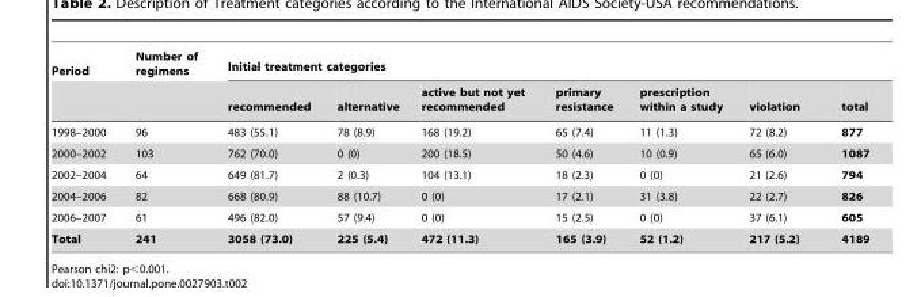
<table><thead><tr><td rowspan="2">Period</td><td rowspan="2">Number of regimens</td><td colspan="7">Initial treatment categories</td></tr><tr><td>recommended</td><td>alternative</td><td>active but not yet recommended</td><td>primary resistance</td><td>prescription within a study</td><td>violation</td><td>total</td></tr></thead><tbody><tr><td>1998–2000</td><td>96</td><td>483 (55.1)</td><td>78 (8.9)</td><td>168 (19.2)</td><td>65 (7.4)</td><td>11 (1.3)</td><td>72 (8.2)</td><td>877</td></tr><tr><td>2000–2002</td><td>103</td><td>762 (70.0)</td><td>0 (0)</td><td>200 (18.5)</td><td>50 (4.6)</td><td>10 (0.9)</td><td>65 (6.0)</td><td>1087</td></tr><tr><td>2002–2004</td><td>64</td><td>649 (81.7)</td><td>2 (0.3)</td><td>104 (13.1)</td><td>18 (2.3)</td><td>0 (0)</td><td>21 (2.6)</td><td>794</td></tr><tr><td>2004–2006</td><td>82</td><td>668 (80.9)</td><td>88 (10.7)</td><td>0 (0)</td><td>17 (2.1)</td><td>31 (3.8)</td><td>22 (2.7)</td><td>826</td></tr><tr><td>2006–2007</td><td>61</td><td>496 (82.0)</td><td>57 (9.4)</td><td>0 (0)</td><td>15 (2.5)</td><td>0 (0)</td><td>37 (6.1)</td><td>605</td></tr><tr><td>Total</td><td>241</td><td>3058 (73.0)</td><td>225 (5.4)</td><td>472 (11.3)</td><td>165 (3.9)</td><td>52 (1.2)</td><td>217 (5.2)</td><td>4189</td></tr></tbody></table>